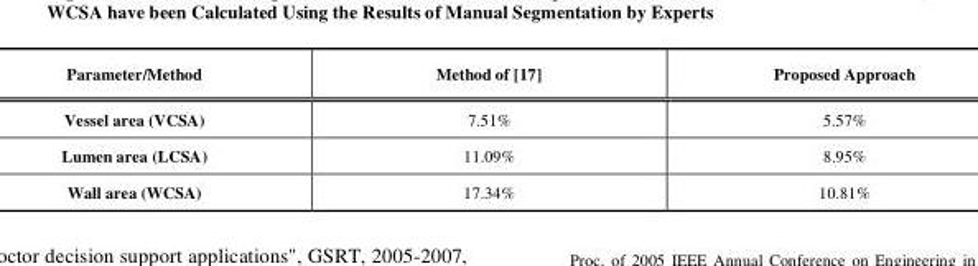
<table><thead><tr><td>Parameter/Method</td><td>Method of [17]</td><td>Proposed Approach</td></tr></thead><tbody><tr><td>Vessel area (VCSA)</td><td>7.51%</td><td>5.57%</td></tr><tr><td>Lumen area (LCSA)</td><td>11.09%</td><td>8.95%</td></tr><tr><td>Wall area (WCSA)</td><td>17.34%</td><td>10.81%</td></tr></tbody></table>